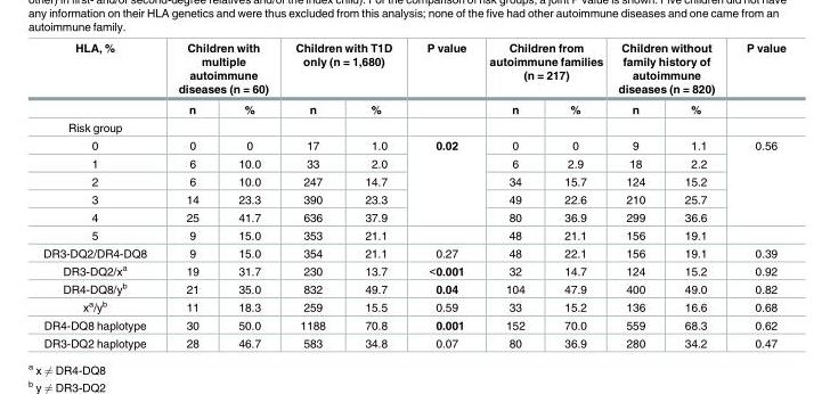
<table><thead><tr><td rowspan="2">HLA, %</td><td colspan="2">Children with multiple autoimmune diseases (n = 60)</td><td colspan="2">Children with T1D only (n = 1,680)</td><td rowspan="2">P value</td><td colspan="2">Children from autoimmune families (n = 217)</td><td colspan="2">Children without family history of autoimmune diseases (n = 820)</td><td rowspan="2">P value</td></tr><tr><td>n</td><td>%</td><td>n</td><td>%</td><td>n</td><td>%</td><td>n</td><td>%</td></tr></thead><tbody><tr><td colspan="11">Risk group</td></tr><tr><td>0</td><td>0</td><td>0</td><td>17</td><td>1.0</td><td rowspan="5">0.02</td><td>0</td><td>0</td><td>9</td><td>1.1</td><td rowspan="5">0.56</td></tr><tr><td>1</td><td>6</td><td>10.0</td><td>33</td><td>2.0</td><td>6</td><td>2.9</td><td>18</td><td>2.2</td></tr><tr><td>2</td><td>6</td><td>10.0</td><td>247</td><td>14.7</td><td>34</td><td>15.7</td><td>124</td><td>15.2</td></tr><tr><td>3</td><td>14</td><td>23.3</td><td>390</td><td>23.3</td><td>49</td><td>22.6</td><td>210</td><td>25.7</td></tr><tr><td>4</td><td>25</td><td>41.7</td><td>636</td><td>37.9</td><td>80</td><td>36.9</td><td>299</td><td>36.6</td></tr><tr><td>5</td><td>9</td><td>15.0</td><td>353</td><td>21.1</td><td></td><td>48</td><td>21.1</td><td>156</td><td>19.1</td><td></td></tr><tr><td>DR3-DQ2/DR4-DQ8</td><td>9</td><td>15.0</td><td>354</td><td>21.1</td><td>0.27</td><td>48</td><td>22.1</td><td>156</td><td>19.1</td><td>0.39</td></tr><tr><td>DR3-DQ2/x<sup>a</sup></td><td>19</td><td>31.7</td><td>230</td><td>13.7</td><td>&lt;0.001</td><td>32</td><td>14.7</td><td>124</td><td>15.2</td><td>0.92</td></tr><tr><td>DR4-DQ8/y<sup>b</sup></td><td>21</td><td>35.0</td><td>832</td><td>49.7</td><td>0.04</td><td>104</td><td>47.9</td><td>400</td><td>49.0</td><td>0.82</td></tr><tr><td>x<sup>a</sup>/y<sup>b</sup></td><td>11</td><td>18.3</td><td>259</td><td>15.5</td><td>0.59</td><td>33</td><td>15.2</td><td>136</td><td>16.6</td><td>0.68</td></tr><tr><td>DR4-DQ8 haplotype</td><td>30</td><td>50.0</td><td>1188</td><td>70.8</td><td>0.001</td><td>152</td><td>70.0</td><td>559</td><td>68.3</td><td>0.62</td></tr><tr><td>DR3-DQ2 haplotype</td><td>28</td><td>46.7</td><td>583</td><td>34.8</td><td>0.07</td><td>80</td><td>36.9</td><td>280</td><td>34.2</td><td>0.47</td></tr></tbody></table>